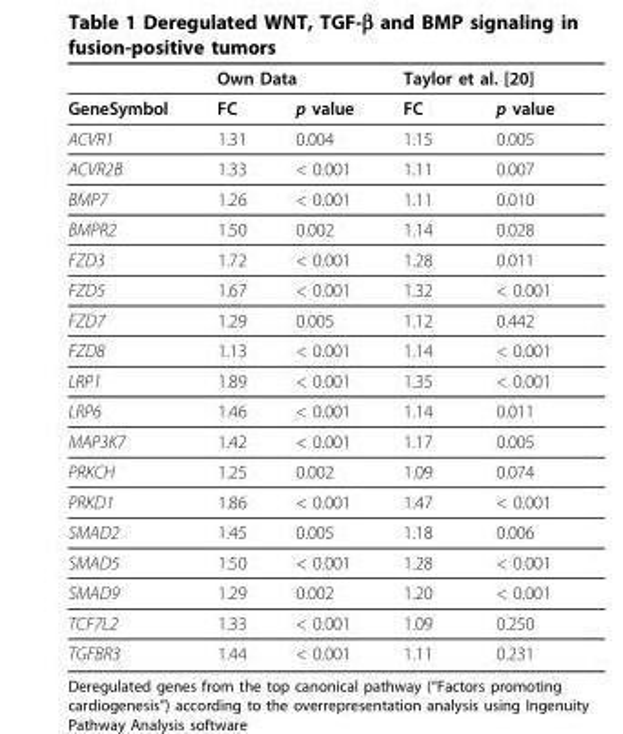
<table><thead><tr><td rowspan="2">GeneSymbol</td><td colspan="2">Own Data</td><td colspan="2">Taylor et al. [20]</td></tr><tr><td>FC</td><td>p value</td><td>FC</td><td>p value</td></tr></thead><tbody><tr><td>ACVR1</td><td>1.31</td><td>0.004</td><td>1.15</td><td>0.005</td></tr><tr><td>ACVR2B</td><td>1.33</td><td>&lt; 0.001</td><td>1.11</td><td>0.007</td></tr><tr><td>BMP7</td><td>1.26</td><td>&lt; 0.001</td><td>1.11</td><td>0.010</td></tr><tr><td>BMPR2</td><td>1.50</td><td>0.002</td><td>1.14</td><td>0.028</td></tr><tr><td>FZD3</td><td>1.72</td><td>&lt; 0.001</td><td>1.28</td><td>0.011</td></tr><tr><td>FZD5</td><td>1.67</td><td>&lt; 0.001</td><td>1.32</td><td>&lt; 0.001</td></tr><tr><td>FZD7</td><td>1.29</td><td>0.005</td><td>1.12</td><td>0.442</td></tr><tr><td>FZD8</td><td>1.13</td><td>&lt; 0.001</td><td>1.14</td><td>&lt; 0.001</td></tr><tr><td>LRP1</td><td>1.89</td><td>&lt; 0.001</td><td>1.35</td><td>&lt; 0.001</td></tr><tr><td>LRP6</td><td>1.46</td><td>&lt; 0.001</td><td>1.14</td><td>0.011</td></tr><tr><td>MAP3K7</td><td>1.42</td><td>&lt; 0.001</td><td>1.17</td><td>0.005</td></tr><tr><td>PRKCH</td><td>1.25</td><td>0.002</td><td>1.09</td><td>0.074</td></tr><tr><td>PRKD1</td><td>1.86</td><td>&lt; 0.001</td><td>1.47</td><td>&lt; 0.001</td></tr><tr><td>SMAD2</td><td>1.45</td><td>0.005</td><td>1.18</td><td>0.006</td></tr><tr><td>SMAD5</td><td>1.50</td><td>&lt; 0.001</td><td>1.28</td><td>&lt; 0.001</td></tr><tr><td>SMAD9</td><td>1.29</td><td>0.002</td><td>1.20</td><td>&lt; 0.001</td></tr><tr><td>TCF7L2</td><td>1.33</td><td>&lt; 0.001</td><td>1.09</td><td>0.250</td></tr><tr><td>TGFBR3</td><td>1.44</td><td>&lt; 0.001</td><td>1.11</td><td>0.231</td></tr></tbody></table>